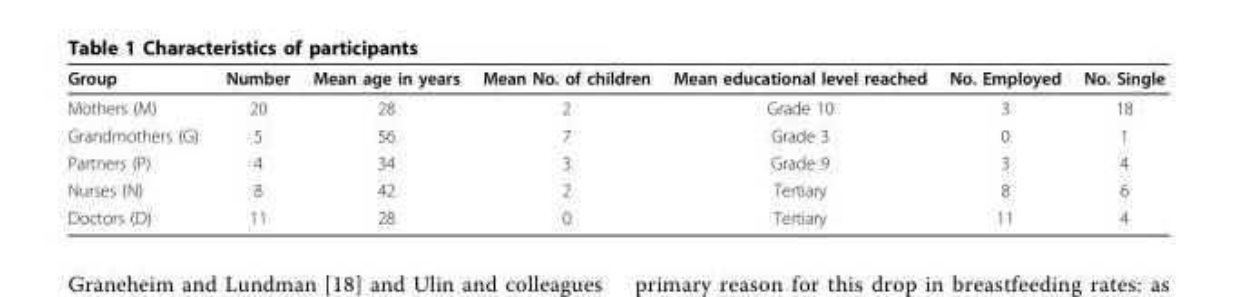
<table><thead><tr><td>Group</td><td>Number</td><td>Mean age in years</td><td>Mean No. of children</td><td>Mean educational level reached</td><td>No. Employed</td><td>No. Single</td></tr></thead><tbody><tr><td>Mothers (M)</td><td>20</td><td>28</td><td>2</td><td>Grade 10</td><td>3</td><td>18</td></tr><tr><td>Grandmothers (G)</td><td>5</td><td>56</td><td>7</td><td>Grade 3</td><td>0</td><td>1</td></tr><tr><td>Partners (P)</td><td>4</td><td>34</td><td>3</td><td>Grade 9</td><td>3</td><td>4</td></tr><tr><td>Nurses (N)</td><td>8</td><td>42</td><td>2</td><td>Tertiary</td><td>8</td><td>6</td></tr><tr><td>Doctors (D)</td><td>11</td><td>28</td><td>0</td><td>Tertiary</td><td>11</td><td>4</td></tr></tbody></table>